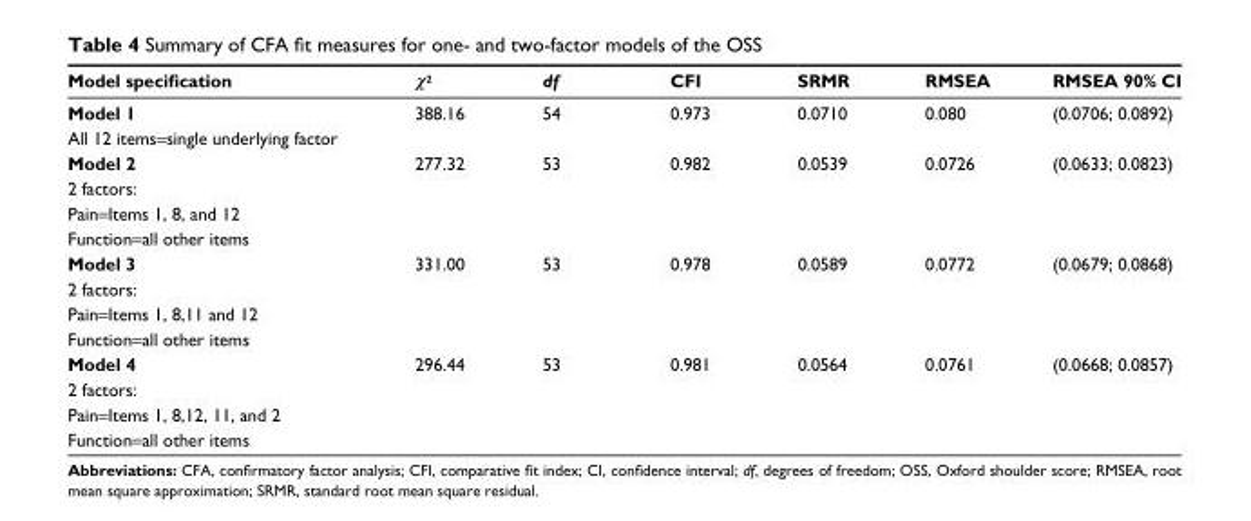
<table><thead><tr><td>Model specification</td><td>χ<sup>2</sup></td><td>df</td><td>CFI</td><td>SRMR</td><td>RMSEA</td><td>RMSEA 90% CI</td></tr></thead><tbody><tr><td>Model 1 All 12 items=single underlying factor</td><td>388.16</td><td>54</td><td>0.973</td><td>0.0710</td><td>0.080</td><td>(0.0706; 0.0892)</td></tr><tr><td>Model 2 2 factors: Pain=Items 1, 8, and 12 Function=all other items</td><td>277.32</td><td>53</td><td>0.982</td><td>0.0539</td><td>0.0726</td><td>(0.0633; 0.0823)</td></tr><tr><td>Model 3 2 factors: Pain=Items 1, 8,11 and 12 Function=all other items</td><td>331.00</td><td>53</td><td>0.978</td><td>0.0589</td><td>0.0772</td><td>(0.0679; 0.0868)</td></tr><tr><td>Model 4 2 factors: Pain=Items 1, 8,12, 11, and 2 Function=all other items</td><td>296.44</td><td>53</td><td>0.981</td><td>0.0564</td><td>0.0761</td><td>(0.0668; 0.0857)</td></tr></tbody></table>